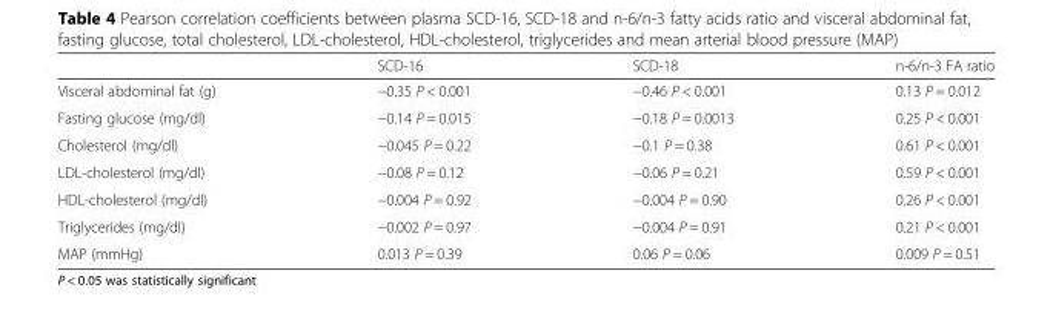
<table><thead><tr><td></td><td>SCD-16</td><td>SCD-18</td><td>n-6/n-3 FA ratio</td></tr></thead><tbody><tr><td>Visceral abdominal fat (g)</td><td>−0.35 P &lt; 0.001</td><td>−0.46 P &lt; 0.001</td><td>0.13 P = 0.012</td></tr><tr><td>Fasting glucose (mg/dl)</td><td>−0.14 P = 0.015</td><td>−0.18 P = 0.0013</td><td>0.25 P &lt; 0.001</td></tr><tr><td>Cholesterol (mg/dl)</td><td>−0.045 P = 0.22</td><td>−0.1 P = 0.38</td><td>0.61 P &lt; 0.001</td></tr><tr><td>LDL-cholesterol (mg/dl)</td><td>−0.08 P = 0.12</td><td>−0.06 P = 0.21</td><td>0.59 P &lt; 0.001</td></tr><tr><td>HDL-cholesterol (mg/dl)</td><td>−0.004 P = 0.92</td><td>−0.004 P = 0.90</td><td>0.26 P &lt; 0.001</td></tr><tr><td>Triglycerides (mg/dl)</td><td>−0.002 P = 0.97</td><td>−0.004 P = 0.91</td><td>0.21 P &lt; 0.001</td></tr><tr><td>MAP (mmHg)</td><td>0.013 P = 0.39</td><td>0.06 P = 0.06</td><td>0.009 P = 0.51</td></tr></tbody></table>